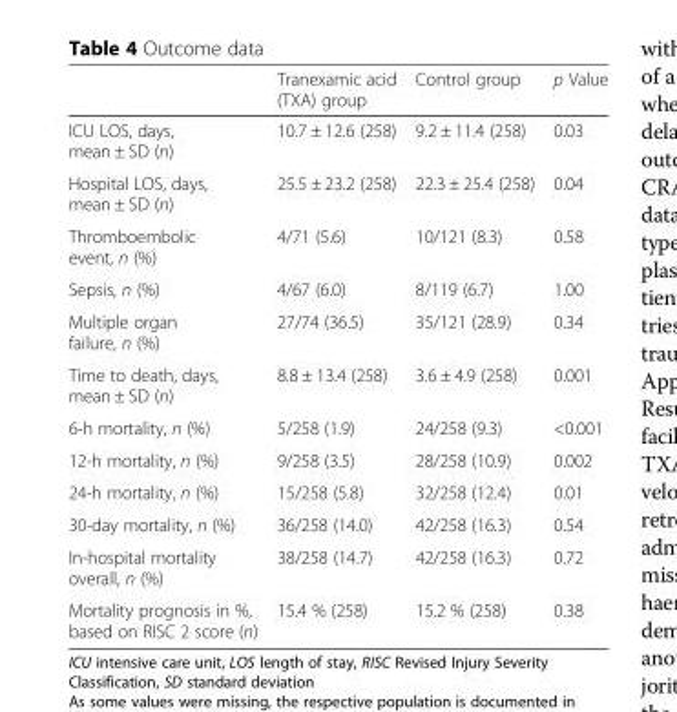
<table><thead><tr><td></td><td>Tranexamic acid (TXA) group</td><td>Control group</td><td>p Value</td></tr></thead><tbody><tr><td>ICU LOS, days, mean ± SD (n)</td><td>10.7 ± 12.6 (258)</td><td>9.2 ± 11.4 (258)</td><td>0.03</td></tr><tr><td>Hospital LOS, days, mean ± SD (n)</td><td>25.5 ± 23.2 (258)</td><td>22.3 ± 25.4 (258)</td><td>0.04</td></tr><tr><td>Thromboembolic event, n (%)</td><td>4/71 (5.6)</td><td>10/121 (8.3)</td><td>0.58</td></tr><tr><td>Sepsis, n (%)</td><td>4/67 (6.0)</td><td>8/119 (6.7)</td><td>1.00</td></tr><tr><td>Multiple organ failure, n (%)</td><td>27/74 (36.5)</td><td>35/121 (28.9)</td><td>0.34</td></tr><tr><td>Time to death, days, mean ± SD (n)</td><td>8.8 ± 13.4 (258)</td><td>3.6 ± 4.9 (258)</td><td>0.001</td></tr><tr><td>6-h mortality, n (%)</td><td>5/258 (1.9)</td><td>24/258 (9.3)</td><td>&lt;0.001</td></tr><tr><td>12-h mortality, n (%)</td><td>9/258 (3.5)</td><td>28/258 (10.9)</td><td>0.002</td></tr><tr><td>24-h mortality, n (%)</td><td>15/258 (5.8)</td><td>32/258 (12.4)</td><td>0.01</td></tr><tr><td>30-day mortality, n (%)</td><td>36/258 (14.0)</td><td>42/258 (16.3)</td><td>0.54</td></tr><tr><td>In-hospital mortality overall, n (%)</td><td>38/258 (14.7)</td><td>42/258 (16.3)</td><td>0.72</td></tr><tr><td>Mortality prognosis in %, based on RISC 2 score (n)</td><td>15.4 % (258)</td><td>15.2 % (258)</td><td>0.38</td></tr></tbody></table>